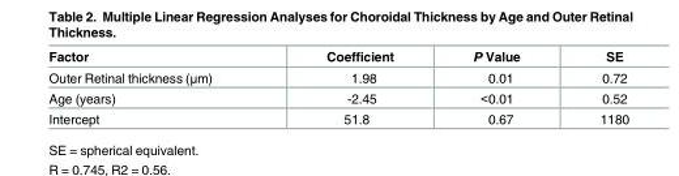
<table><thead><tr><td>Factor</td><td>Coefficient</td><td>P Value</td><td>SE</td></tr></thead><tbody><tr><td>Outer Retinal thickness (μm)</td><td>1.98</td><td>0.01</td><td>0.72</td></tr><tr><td>Age (years)</td><td>-2.45</td><td>&lt;0.01</td><td>0.52</td></tr><tr><td>Intercept</td><td>51.8</td><td>0.67</td><td>1180</td></tr></tbody></table>